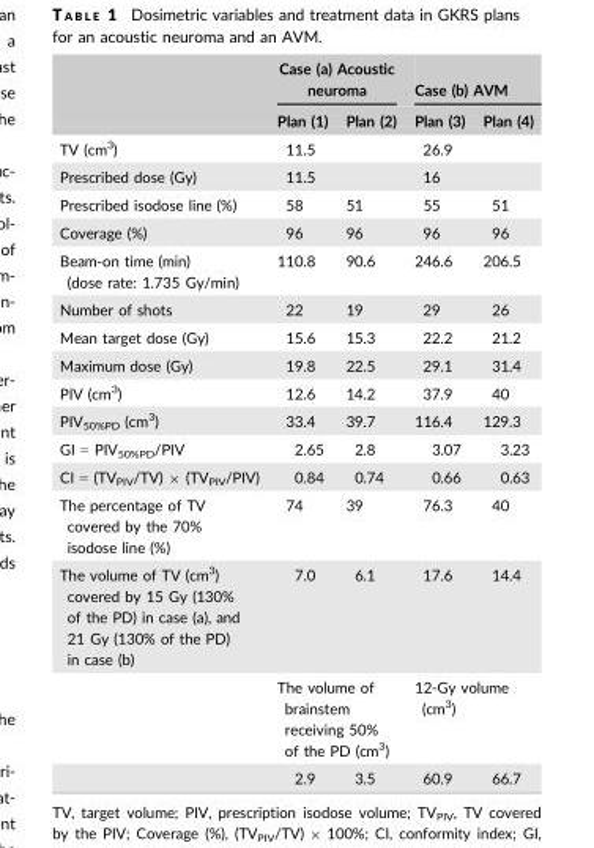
<table><thead><tr><td rowspan="2"></td><td colspan="2">Case (a) Acoustic neuroma</td><td colspan="2">Case (b) AVM</td></tr><tr><td>Plan (1)</td><td>Plan (2)</td><td>Plan (3)</td><td>Plan (4)</td></tr></thead><tbody><tr><td>TV (cm<sup>3</sup>)</td><td>11.5</td><td></td><td>26.9</td><td></td></tr><tr><td>Prescribed dose (Gy)</td><td>11.5</td><td></td><td>16</td><td></td></tr><tr><td>Prescribed isodose line (%)</td><td>58</td><td>51</td><td>55</td><td>51</td></tr><tr><td>Coverage (%)</td><td>96</td><td>96</td><td>96</td><td>96</td></tr><tr><td>Beam-on time (min) (dose rate: 1.735 Gy/min)</td><td>110.8</td><td>90.6</td><td>246.6</td><td>206.5</td></tr><tr><td>Number of shots</td><td>22</td><td>19</td><td>29</td><td>26</td></tr><tr><td>Mean target dose (Gy)</td><td>15.6</td><td>15.3</td><td>22.2</td><td>21.2</td></tr><tr><td>Maximum dose (Gy)</td><td>19.8</td><td>22.5</td><td>29.1</td><td>31.4</td></tr><tr><td>PIV (cm<sup>3</sup>)</td><td>12.6</td><td>14.2</td><td>37.9</td><td>40</td></tr><tr><td>PIV<sub>50%PD</sub> (cm<sup>3</sup>)</td><td>33.4</td><td>39.7</td><td>116.4</td><td>129.3</td></tr><tr><td>GI = PIV<sub>50%PD</sub>/PIV</td><td>2.65</td><td>2.8</td><td>3.07</td><td>3.23</td></tr><tr><td>CI = (TV<sub>PIV</sub>/TV) × (TV<sub>PIV</sub>/PIV)</td><td>0.84</td><td>0.74</td><td>0.66</td><td>0.63</td></tr><tr><td>The percentage of TV covered by the 70% isodose line (%)</td><td>74</td><td>39</td><td>76.3</td><td>40</td></tr><tr><td rowspan="3">The volume of TV (cm<sup>3</sup>) covered by 15 Gy (130% of the PD) in case (a), and 21 Gy (130% of the PD) in case (b)</td><td>7.0</td><td>6.1</td><td>17.6</td><td>14.4</td></tr><tr><td colspan="2">The volume of brainstem receiving 50% of the PD (cm<sup>3</sup>)</td><td colspan="2">12-Gy volume (cm<sup>3</sup>)</td></tr><tr><td>2.9</td><td>3.5</td><td>60.9</td><td>66.7</td></tr></tbody></table>